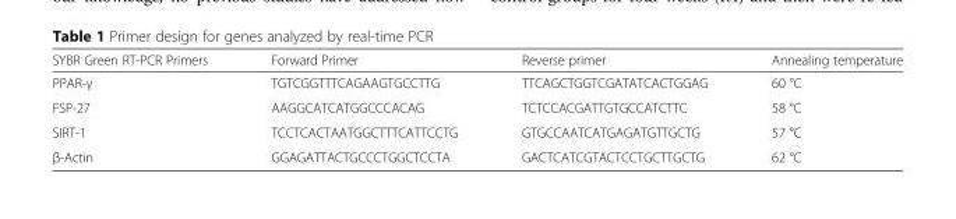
<table><thead><tr><td>SYBR Green RT-PCR Primers</td><td>Forward Primer</td><td>Reverse primer</td><td>Annealing temperature</td></tr></thead><tbody><tr><td>PPAR-γ</td><td>TGTCGGTTTCAGAAGTGCCTTG</td><td>TTCAGCTGGTCGATATCACTGGAG</td><td>60 °C</td></tr><tr><td>FSP-27</td><td>AAGGCATCATGGCCCACAG</td><td>TCTCCACGATTGTGCCATCTTC</td><td>58 °C</td></tr><tr><td>SIRT-1</td><td>TCCTCACTAATGGCTTTCATTCCTG</td><td>GTGCCAATCATGAGATGTTGCTG</td><td>57 °C</td></tr><tr><td>β-Actin</td><td>GGAGATTACTGCCCTGGCTCCTA</td><td>GACTCATCGTACTCCTGCTTGCTG</td><td>62 °C</td></tr></tbody></table>